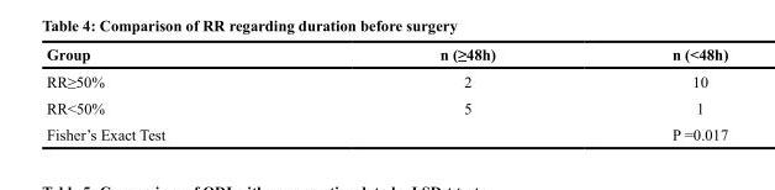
<table><thead><tr><td>Group</td><td>n (≥48h)</td><td>n (&lt;48h)</td></tr></thead><tbody><tr><td>RR≥50%</td><td>2</td><td>10</td></tr><tr><td>RR&lt;50%</td><td>5</td><td>1</td></tr><tr><td>Fisher’s Exact Test</td><td></td><td>P =0.017</td></tr></tbody></table>